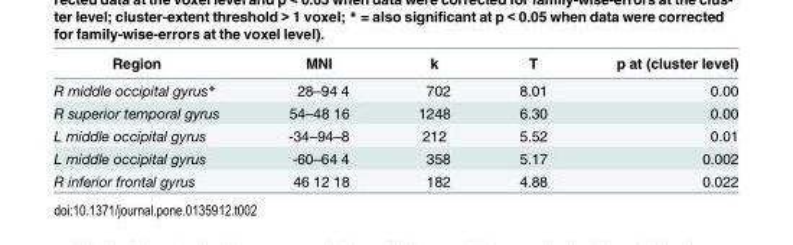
<table><thead><tr><td>Region</td><td>MNI</td><td>k</td><td>T</td><td>p at (cluster level)</td></tr></thead><tbody><tr><td>R middle occipital gyrus*</td><td>28–94 4</td><td>702</td><td>8.01</td><td>0.00</td></tr><tr><td>R superior temporal gyrus</td><td>54–48 16</td><td>1248</td><td>6.30</td><td>0.00</td></tr><tr><td>L middle occipital gyrus</td><td>-34–94–8</td><td>212</td><td>5.52</td><td>0.01</td></tr><tr><td>L middle occipital gyrus</td><td>-60–64 4</td><td>358</td><td>5.17</td><td>0.002</td></tr><tr><td>R inferior frontal gyrus</td><td>46 12 18</td><td>182</td><td>4.88</td><td>0.022</td></tr></tbody></table>